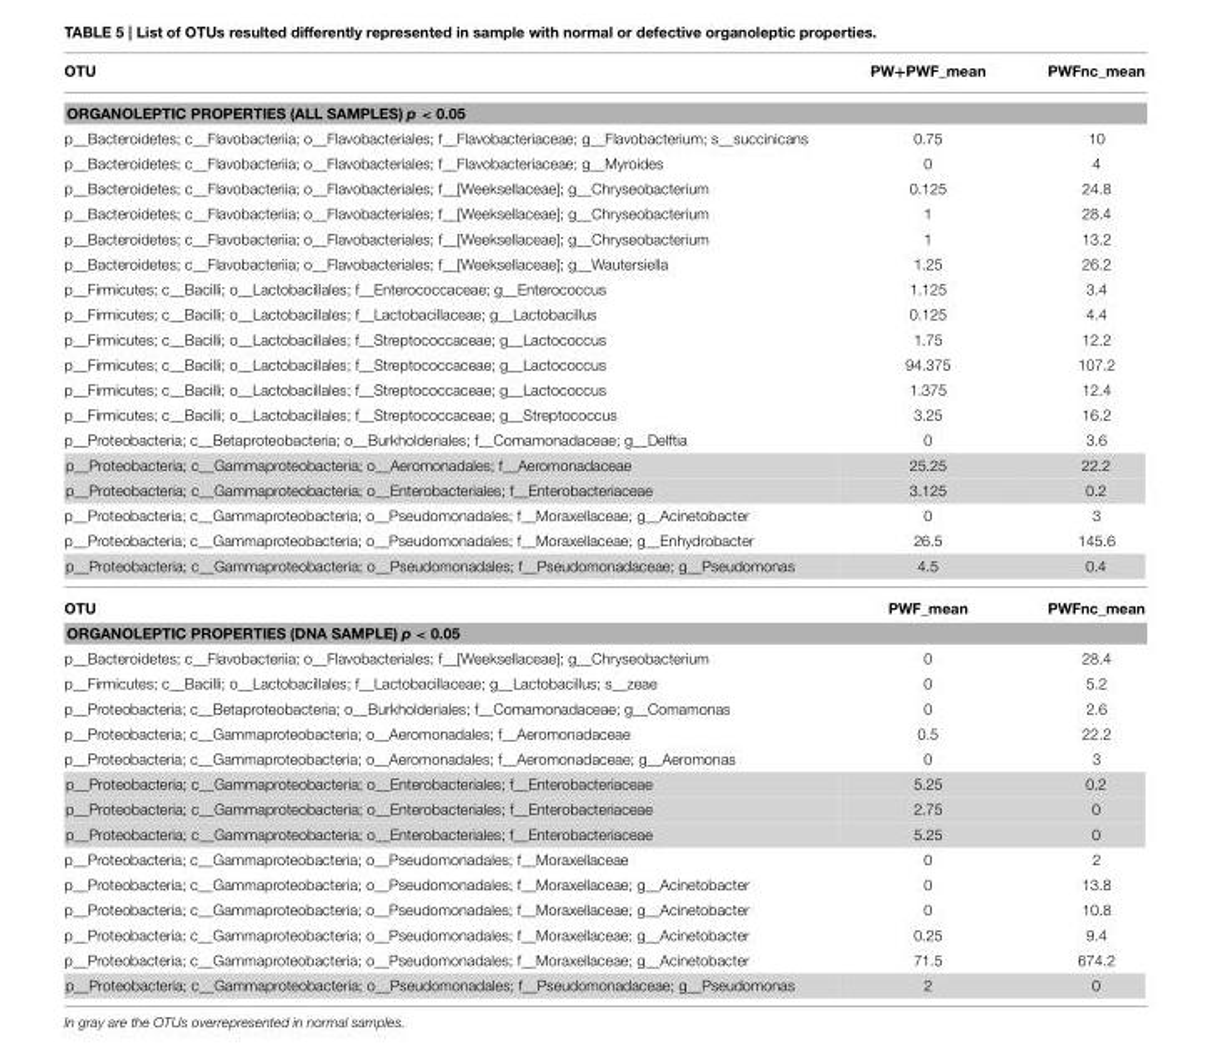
<table><thead><tr><td>OTU</td><td>PW+PWF_mean</td><td>PWFnc_mean</td></tr></thead><tbody><tr><td colspan="3">ORGANOLEPTIC PROPERTIES (ALL SAMPLES) p &lt; 0.05</td></tr><tr><td>p__Bacteroidetes; c__Flavobacteriia; o__Flavobacteriales; f__Flavobacteriaceae; g__Flavobacterium; s__succinicans</td><td>0.75</td><td>10</td></tr><tr><td>p__Bacteroidetes; c__Flavobacteriia; o__Flavobacteriales; f__Flavobacteriaceae; g__Myroides</td><td>0</td><td>4</td></tr><tr><td>p__Bacteroidetes; c__Flavobacteriia; o__Flavobacteriales; f__[Weeksellaceae]; g__Chryseobacterium</td><td>0.125</td><td>24.8</td></tr><tr><td>p__Bacteroidetes; c__Flavobacteriia; o__Flavobacteriales; f__[Weeksellaceae]; g__Chryseobacterium</td><td>1</td><td>28.4</td></tr><tr><td>p__Bacteroidetes; c__Flavobacteriia; o__Flavobacteriales; f__[Weeksellaceae]; g__Chryseobacterium</td><td>1</td><td>13.2</td></tr><tr><td>p__Bacteroidetes; c__Flavobacteriia; o__Flavobacteriales; f__[Weeksellaceae]; g__Wautersiella</td><td>1.25</td><td>26.2</td></tr><tr><td>p__Firmicutes; c__Bacilli; o__Lactobacillales; f__Enterococcaceae; g__Enterococcus</td><td>1.125</td><td>3.4</td></tr><tr><td>p__Firmicutes; c__Bacilli; o__Lactobacillales; f__Lactobacillaceae; g__Lactobacillus</td><td>0.125</td><td>4.4</td></tr><tr><td>p__Firmicutes; c__Bacilli; o__Lactobacillales; f__Streptococcaceae; g__Lactococcus</td><td>1.75</td><td>12.2</td></tr><tr><td>p__Firmicutes; c__Bacilli; o__Lactobacillales; f__Streptococcaceae; g__Lactococcus</td><td>94.375</td><td>107.2</td></tr><tr><td>p__Firmicutes; c__Bacilli; o__Lactobacillales; f__Streptococcaceae; g__Lactococcus</td><td>1.375</td><td>12.4</td></tr><tr><td>p__Firmicutes; c__Bacilli; o__Lactobacillales; f__Streptococcaceae; g__Streptococcus</td><td>3.25</td><td>16.2</td></tr><tr><td>p__Proteobacteria; c__Betaproteobacteria; o__Burkholderiales; f__Comamonadaceae; g__Delftia</td><td>0</td><td>3.6</td></tr><tr><td>p__Proteobacteria; c__Gammaproteobacteria; o__Aeromonadales; f__Aeromonadaceae</td><td>25.25</td><td>22.2</td></tr><tr><td>p__Proteobacteria; c__Gammaproteobacteria; o__Enterobacteriales; f__Enterobacteriaceae</td><td>3.125</td><td>0.2</td></tr><tr><td>p__Proteobacteria; c__Gammaproteobacteria; o__Pseudomonadales; f__Moraxellaceae; g__Acinetobacter</td><td>0</td><td>3</td></tr><tr><td>p__Proteobacteria; c__Gammaproteobacteria; o__Pseudomonadales; f__Moraxellaceae; g__Enhydrobacter</td><td>26.5</td><td>145.6</td></tr><tr><td>p__Proteobacteria; c__Gammaproteobacteria; o__Pseudomonadales; f__Pseudomonadaceae; g__Pseudomonas</td><td>4.5</td><td>0.4</td></tr><tr><td>OTU</td><td>PWF_mean</td><td>PWFnc_mean</td></tr><tr><td colspan="3">ORGANOLEPTIC PROPERTIES (DNA SAMPLE) p &lt; 0.05</td></tr><tr><td>p__Bacteroidetes; c__Flavobacteriia; o__Flavobacteriales; f__[Weeksellaceae]; g__Chryseobacterium</td><td>0</td><td>28.4</td></tr><tr><td>p__Firmicutes; c__Bacilli; o__Lactobacillales; f__Lactobacillaceae; g__Lactobacillus; s__zeae</td><td>0</td><td>5.2</td></tr><tr><td>p__Proteobacteria; c__Betaproteobacteria; o__Burkholderiales; f__Comamonadaceae; g__Comamonas</td><td>0</td><td>2.6</td></tr><tr><td>p__Proteobacteria; c__Gammaproteobacteria; o__Aeromonadales; f__Aeromonadaceae</td><td>0.5</td><td>22.2</td></tr><tr><td>p__Proteobacteria; c__Gammaproteobacteria; o__Aeromonadales; f__Aeromonadaceae; g__Aeromonas</td><td>0</td><td>3</td></tr><tr><td>p__Proteobacteria; c__Gammaproteobacteria; o__Enterobacteriales; f__Enterobacteriaceae</td><td>5.25</td><td>0.2</td></tr><tr><td>p__Proteobacteria; c__Gammaproteobacteria; o__Enterobacteriales; f__Enterobacteriaceae</td><td>2.75</td><td>0</td></tr><tr><td>p__Proteobacteria; c__Gammaproteobacteria; o__Enterobacteriales; f__Enterobacteriaceae</td><td>5.25</td><td>0</td></tr><tr><td>p__Proteobacteria; c__Gammaproteobacteria; o__Pseudomonadales; f__Moraxellaceae</td><td>0</td><td>2</td></tr><tr><td>p__Proteobacteria; c__Gammaproteobacteria; o__Pseudomonadales; f__Moraxellaceae; g__Acinetobacter</td><td>0</td><td>13.8</td></tr><tr><td>p__Proteobacteria; c__Gammaproteobacteria; o__Pseudomonadales; f__Moraxellaceae; g__Acinetobacter</td><td>0</td><td>10.8</td></tr><tr><td>p__Proteobacteria; c__Gammaproteobacteria; o__Pseudomonadales; f__Moraxellaceae; g__Acinetobacter</td><td>0.25</td><td>9.4</td></tr><tr><td>p__Proteobacteria; c__Gammaproteobacteria; o__Pseudomonadales; f__Moraxellaceae; g__Acinetobacter</td><td>71.5</td><td>674.2</td></tr><tr><td>p__Proteobacteria; c__Gammaproteobacteria; o__Pseudomonadales; f__Pseudomonadaceae; g__Pseudomonas</td><td>2</td><td>0</td></tr></tbody></table>